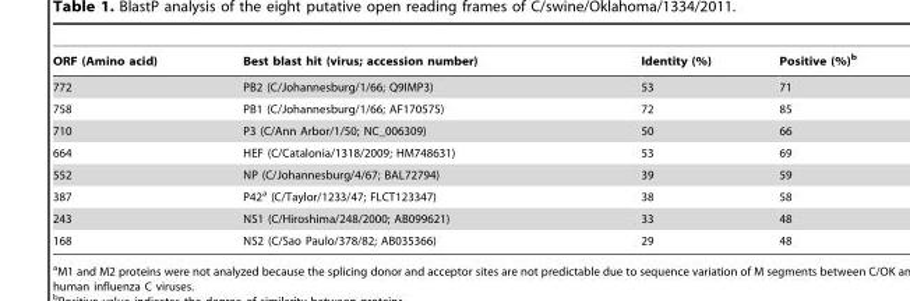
<table><thead><tr><td>ORF (Amino acid)</td><td>Best blast hit (virus; accession number)</td><td>Identity (%)</td><td>Positive (%)<sup>b</sup></td></tr></thead><tbody><tr><td>772</td><td>PB2 (C/Johannesburg/1/66; Q9IMP3)</td><td>53</td><td>71</td></tr><tr><td>758</td><td>PB1 (C/Johannesburg/1/66; AF170575)</td><td>72</td><td>85</td></tr><tr><td>710</td><td>P3 (C/Ann Arbor/1/50; NC_006309)</td><td>50</td><td>66</td></tr><tr><td>664</td><td>HEF (C/Catalonia/1318/2009; HM748631)</td><td>53</td><td>69</td></tr><tr><td>552</td><td>NP (C/Johannesburg/4/67; BAL72794)</td><td>39</td><td>59</td></tr><tr><td>387</td><td>P42<sup>a</sup> (C/Taylor/1233/47; FLCT123347)</td><td>38</td><td>58</td></tr><tr><td>243</td><td>NS1 (C/Hiroshima/248/2000; AB099621)</td><td>33</td><td>48</td></tr><tr><td>168</td><td>NS2 (C/Sao Paulo/378/82; AB035366)</td><td>29</td><td>48</td></tr></tbody></table>